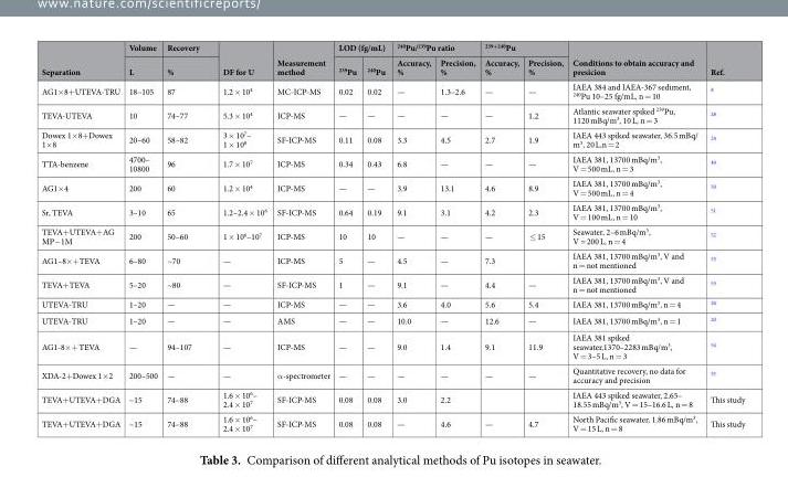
<table><thead><tr><td rowspan="2">Separation</td><td rowspan="2">Volume L</td><td rowspan="2">Recovery %</td><td rowspan="2">DF for U</td><td rowspan="2">Measurement method</td><td colspan="2">LOD (fg/mL)</td><td colspan="2"><sup>240</sup>Pu/<sup>239</sup>Pu ratio</td><td colspan="2"><sup>239+240</sup>Pu</td><td rowspan="2">Conditions to obtain accuracy and presicion</td><td rowspan="2">Ref.</td></tr><tr><td><sup>239</sup>Pu</td><td><sup>240</sup>Pu</td><td>Accuracy, %</td><td>Precision, %</td><td>Accuracy, %</td><td>Precision, %</td></tr></thead><tbody><tr><td>AG1×8+UTEVA-TRU</td><td>18–105</td><td>87</td><td>1.2 × 10<sup>4</sup></td><td>MC-ICP-MS</td><td>0.02</td><td>0.02</td><td>—</td><td>1.3–2.6</td><td>—</td><td>—</td><td>IAEA 384 and IAEA-367 sediment, <sup>240</sup>Pu 10–25 fg/mL, n = 10</td><td><sup>8</sup></td></tr><tr><td>TEVA-UTEVA</td><td>10</td><td>74–77</td><td>5.3 × 10<sup>4</sup></td><td>ICP-MS</td><td>—</td><td>—</td><td>—</td><td>—</td><td>—</td><td>1.2</td><td>Atlantic seawater spiked <sup>239</sup>Pu, 1120 mBq/m<sup>3</sup>, 10 L, n = 3</td><td><sup>28</sup></td></tr><tr><td>Dowex 1×8+Dowex 1×8</td><td>20–60</td><td>58–82</td><td>3 × 10<sup>7</sup>– 1 × 10<sup>8</sup></td><td>SF-ICP-MS</td><td>0.11</td><td>0.08</td><td>3.3</td><td>4.5</td><td>2.7</td><td>1.9</td><td>IAEA 443 spiked seawater, 36.5 mBq/ m<sup>3</sup>, 20 L,n = 2</td><td><sup>24</sup></td></tr><tr><td>TTA-benzene</td><td>4700– 10800</td><td>96</td><td>1.7 × 10<sup>7</sup></td><td>ICP-MS</td><td>0.34</td><td>0.43</td><td>6.8</td><td>—</td><td>—</td><td>—</td><td>IAEA 381, 13700 mBq/m<sup>3</sup>, V = 500 mL, n = 3</td><td><sup>49</sup></td></tr><tr><td>AG1×4</td><td>200</td><td>60</td><td>1.2 × 10<sup>4</sup></td><td>ICP-MS</td><td>—</td><td>—</td><td>3.9</td><td>13.1</td><td>4.6</td><td>8.9</td><td>IAEA 381, 13700 mBq/m<sup>3</sup>, V = 500 mL, n = 4</td><td><sup>50</sup></td></tr><tr><td>Sr, TEVA</td><td>3–10</td><td>65</td><td>1.2–2.4 × 10<sup>6</sup></td><td>SF-ICP-MS</td><td>0.64</td><td>0.19</td><td>9.1</td><td>3.1</td><td>4.2</td><td>2.3</td><td>IAEA 381, 13700 mBq/m<sup>3</sup>, V = 100 mL, n = 10</td><td><sup>51</sup></td></tr><tr><td>TEVA+UTEVA+AG MP−1M</td><td>200</td><td>50–60</td><td>1 × 10<sup>6</sup>–10<sup>7</sup></td><td>ICP-MS</td><td>10</td><td>10</td><td>—</td><td>—</td><td>—</td><td>≤ 15</td><td>Seawater, 2–6 mBq/m<sup>3</sup>, V = 200 L, n = 4</td><td><sup>52</sup></td></tr><tr><td>AG1–8×+TEVA</td><td>6–80</td><td>~70</td><td>—</td><td>ICP-MS</td><td>5</td><td>—</td><td>4.5</td><td>—</td><td>7.3</td><td></td><td>IAEA 381, 13700 mBq/m<sup>3</sup>, V and n = not mentioned</td><td><sup>53</sup></td></tr><tr><td>TEVA+TEVA</td><td>5–20</td><td>~80</td><td>—</td><td>SF-ICP-MS</td><td>1</td><td>—</td><td>9.1</td><td>—</td><td>4.4</td><td>—</td><td>IAEA 381, 13700 mBq/m<sup>3</sup>, V and n = not mentioned</td><td><sup>53</sup></td></tr><tr><td>UTEVA-TRU</td><td>1–20</td><td>—</td><td>—</td><td>ICP-MS</td><td>—</td><td>—</td><td>3.6</td><td>4.0</td><td>5.6</td><td>5.4</td><td>IAEA 381, 13700 mBq/m<sup>3</sup>, n = 4</td><td><sup>20</sup></td></tr><tr><td>UTEVA-TRU</td><td>1–20</td><td>—</td><td>—</td><td>AMS</td><td>—</td><td>—</td><td>10.0</td><td>—</td><td>12.6</td><td>—</td><td>IAEA 381, 13700 mBq/m<sup>3</sup>, n = 1</td><td><sup>20</sup></td></tr><tr><td>AG1-8×+ TEVA</td><td>—</td><td>94–107</td><td>—</td><td>ICP-MS</td><td>—</td><td>—</td><td>9.0</td><td>1.4</td><td>9.1</td><td>11.9</td><td>IAEA 381 spiked seawater,1370–2283 mBq/m<sup>3</sup>, V = 3–5 L, n = 3</td><td><sup>54</sup></td></tr><tr><td>XDA-2+Dowex 1×2</td><td>200–500</td><td>—</td><td>—</td><td>α-spectrometer</td><td>—</td><td>—</td><td>—</td><td>—</td><td>—</td><td>—</td><td>Quantitative recovery, no data for accuracy and precision</td><td><sup>55</sup></td></tr><tr><td>TEVA+UTEVA+DGA</td><td>~15</td><td>74–88</td><td>1.6 × 10<sup>6</sup>– 2.4 × 10<sup>7</sup></td><td>SF-ICP-MS</td><td>0.08</td><td>0.08</td><td>3.0</td><td>2.2</td><td></td><td></td><td>IAEA 443 spiked seawater, 2.65– 18.55 mBq/m<sup>3</sup>, V = 15–16.6 L, n = 8</td><td>This study</td></tr><tr><td>TEVA+UTEVA+DGA</td><td>~15</td><td>74–88</td><td>1.6 × 10<sup>6</sup>– 2.4 × 10<sup>7</sup></td><td>SF-ICP-MS</td><td>0.08</td><td>0.08</td><td>—</td><td>4.6</td><td>—</td><td>4.7</td><td>North Pacific seawater, 1.86 mBq/m<sup>3</sup>, V = 15 L, n = 8</td><td>This study</td></tr></tbody></table>